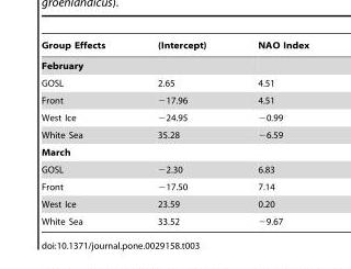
<table><thead><tr><td>Group Effects</td><td>(Intercept)</td><td>NAO Index</td></tr></thead><tbody><tr><td colspan="3">February</td></tr><tr><td>GOSL</td><td>2.65</td><td>4.51</td></tr><tr><td>Front</td><td>−17.96</td><td>4.51</td></tr><tr><td>West Ice</td><td>−24.95</td><td>−0.99</td></tr><tr><td>White Sea</td><td>35.28</td><td>−6.59</td></tr><tr><td colspan="3">March</td></tr><tr><td>GOSL</td><td>−2.30</td><td>6.83</td></tr><tr><td>Front</td><td>−17.50</td><td>7.14</td></tr><tr><td>West Ice</td><td>23.59</td><td>0.20</td></tr><tr><td>White Sea</td><td>33.52</td><td>−9.67</td></tr></tbody></table>